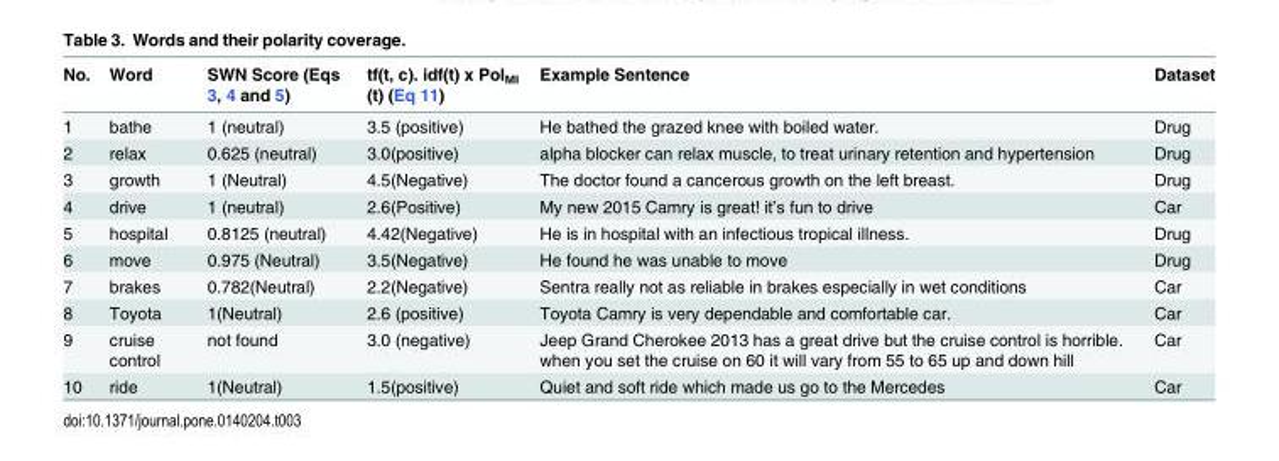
<table><thead><tr><td>No.</td><td>Word</td><td>SWN Score (Eqs 3, 4 and 5)</td><td>tf(t, c). idf(t) x Pol<sub>MI</sub> (t) (Eq 11)</td><td>Example Sentence</td><td>Dataset</td></tr></thead><tbody><tr><td>1</td><td>bathe</td><td>1 (neutral)</td><td>3.5 (positive)</td><td>He bathed the grazed knee with boiled water.</td><td>Drug</td></tr><tr><td>2</td><td>relax</td><td>0.625 (neutral)</td><td>3.0(positive)</td><td>alpha blocker can relax muscle, to treat urinary retention and hypertension</td><td>Drug</td></tr><tr><td>3</td><td>growth</td><td>1 (Neutral)</td><td>4.5(Negative)</td><td>The doctor found a cancerous growth on the left breast.</td><td>Drug</td></tr><tr><td>4</td><td>drive</td><td>1 (neutral)</td><td>2.6(Positive)</td><td>My new 2015 Camry is great! it’s fun to drive</td><td>Car</td></tr><tr><td>5</td><td>hospital</td><td>0.8125 (neutral)</td><td>4.42(Negative)</td><td>He is in hospital with an infectious tropical illness.</td><td>Drug</td></tr><tr><td>6</td><td>move</td><td>0.975 (Neutral)</td><td>3.5(Negative)</td><td>He found he was unable to move</td><td>Drug</td></tr><tr><td>7</td><td>brakes</td><td>0.782(Neutral)</td><td>2.2(Negative)</td><td>Sentra really not as reliable in brakes especially in wet conditions</td><td>Car</td></tr><tr><td>8</td><td>Toyota</td><td>1(Neutral)</td><td>2.6 (positive)</td><td>Toyota Camry is very dependable and comfortable car.</td><td>Car</td></tr><tr><td>9</td><td>cruise control</td><td>not found</td><td>3.0 (negative)</td><td>Jeep Grand Cherokee 2013 has a great drive but the cruise control is horrible. when you set the cruise on 60 it will vary from 55 to 65 up and down hill</td><td>Car</td></tr><tr><td>10</td><td>ride</td><td>1(Neutral)</td><td>1.5(positive)</td><td>Quiet and soft ride which made us go to the Mercedes</td><td>Car</td></tr></tbody></table>